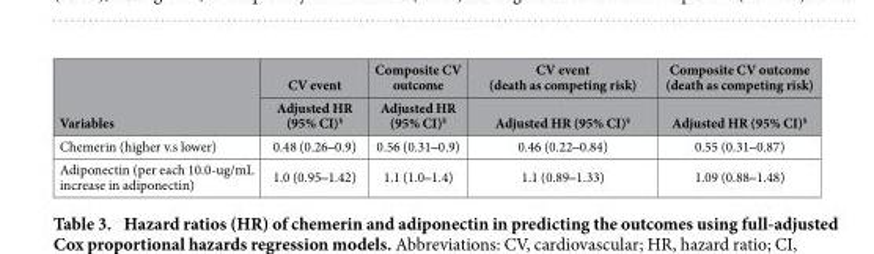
<table><thead><tr><td rowspan="2">Variables</td><td rowspan="2">CV event Adjusted HR (95% CI)§</td><td rowspan="2">Composite CV outcome Adjusted HR (95% CI)§</td><td rowspan="2">CV event (death as competing risk) Adjusted HR (95% CI)§</td><td rowspan="2">Composite CV outcome (death as competing risk) Adjusted HR (95% CI)§</td></tr><tr></tr></thead><tbody><tr><td>Chemerin (higher v.s lower)</td><td>0.48 (0.26‒ 0.9)</td><td>0.56 (0.31‒ 0.9)</td><td>0.46 (0.22‒ 0.84)</td><td>0.55 (0.31‒ 0.87)</td></tr><tr><td>Adiponectin (per each 10.0-ug/mL increase in adiponectin)</td><td>1.0 (0.95‒ 1.42)</td><td>1.1 (1.0‒ 1.4)</td><td>1.1 (0.89‒ 1.33)</td><td>1.09 (0.88‒ 1.48)</td></tr></tbody></table>